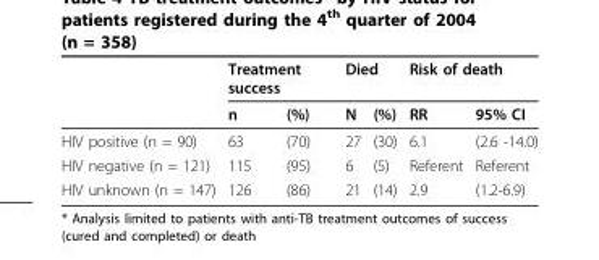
<table><thead><tr><td rowspan="2"></td><td colspan="2">Treatment success</td><td colspan="2">Died</td><td colspan="2">Risk of death</td></tr><tr><td>n</td><td>(%)</td><td>N</td><td>(%)</td><td>RR</td><td>95% CI</td></tr></thead><tbody><tr><td>HIV positive (n = 90)</td><td>63</td><td>(70)</td><td>27</td><td>(30)</td><td>6.1</td><td>(2.6 -14.0)</td></tr><tr><td>HIV negative (n = 121)</td><td>115</td><td>(95)</td><td>6</td><td>(5)</td><td>Referent</td><td>Referent</td></tr><tr><td>HIV unknown (n = 147)</td><td>126</td><td>(86)</td><td>21</td><td>(14)</td><td>2.9</td><td>(1.2-6.9)</td></tr></tbody></table>